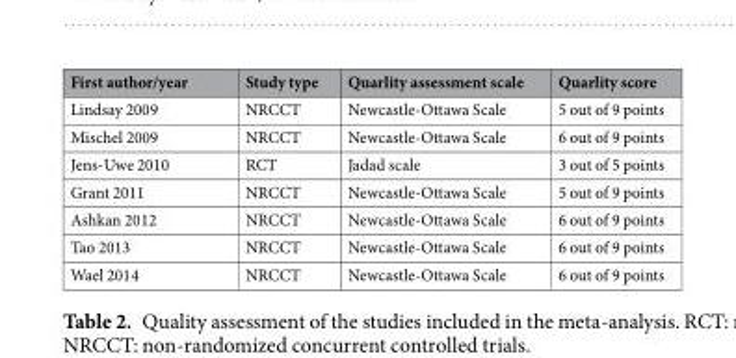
<table><thead><tr><td>First author/year</td><td>Study type</td><td>Quarlity assessment scale</td><td>Quarlity score</td></tr></thead><tbody><tr><td>Lindsay 2009</td><td>NRCCT</td><td>Newcastle-Ottawa Scale</td><td>5 out of 9 points</td></tr><tr><td>Mischel 2009</td><td>NRCCT</td><td>Newcastle-Ottawa Scale</td><td>6 out of 9 points</td></tr><tr><td>Jens-Uwe 2010</td><td>RCT</td><td>Jadad scale</td><td>3 out of 5 points</td></tr><tr><td>Grant 2011</td><td>NRCCT</td><td>Newcastle-Ottawa Scale</td><td>5 out of 9 points</td></tr><tr><td>Ashkan 2012</td><td>NRCCT</td><td>Newcastle-Ottawa Scale</td><td>6 out of 9 points</td></tr><tr><td>Tao 2013</td><td>NRCCT</td><td>Newcastle-Ottawa Scale</td><td>6 out of 9 points</td></tr><tr><td>Wael 2014</td><td>NRCCT</td><td>Newcastle-Ottawa Scale</td><td>6 out of 9 points</td></tr></tbody></table>